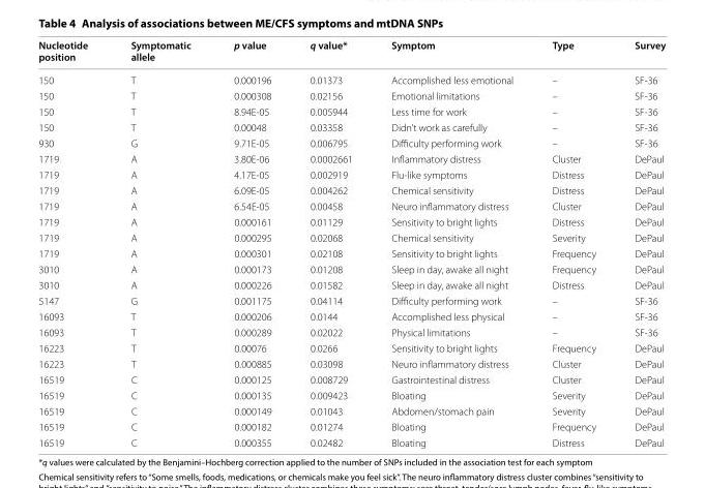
<table><thead><tr><td>Nucleotide position</td><td>Symptomatic allele</td><td>p value</td><td>q value*</td><td>Symptom</td><td>Type</td><td>Survey</td></tr></thead><tbody><tr><td>150</td><td>T</td><td>0.000196</td><td>0.01373</td><td>Accomplished less emotional</td><td>–</td><td>SF‑36</td></tr><tr><td>150</td><td>T</td><td>0.000308</td><td>0.02156</td><td>Emotional limitations</td><td>–</td><td>SF‑36</td></tr><tr><td>150</td><td>T</td><td>8.94E‑05</td><td>0.005944</td><td>Less time for work</td><td>–</td><td>SF‑36</td></tr><tr><td>150</td><td>T</td><td>0.00048</td><td>0.03358</td><td>Didn’t work as carefully</td><td>–</td><td>SF‑36</td></tr><tr><td>930</td><td>G</td><td>9.71E‑05</td><td>0.006795</td><td>Difficulty performing work</td><td>–</td><td>SF‑36</td></tr><tr><td>1719</td><td>A</td><td>3.80E‑06</td><td>0.0002661</td><td>Inflammatory distress</td><td>Cluster</td><td>DePaul</td></tr><tr><td>1719</td><td>A</td><td>4.17E‑05</td><td>0.002919</td><td>Flu‑like symptoms</td><td>Distress</td><td>DePaul</td></tr><tr><td>1719</td><td>A</td><td>6.09E‑05</td><td>0.004262</td><td>Chemical sensitivity</td><td>Distress</td><td>DePaul</td></tr><tr><td>1719</td><td>A</td><td>6.54E‑05</td><td>0.00458</td><td>Neuro inflammatory distress</td><td>Cluster</td><td>DePaul</td></tr><tr><td>1719</td><td>A</td><td>0.000161</td><td>0.01129</td><td>Sensitivity to bright lights</td><td>Distress</td><td>DePaul</td></tr><tr><td>1719</td><td>A</td><td>0.000295</td><td>0.02068</td><td>Chemical sensitivity</td><td>Severity</td><td>DePaul</td></tr><tr><td>1719</td><td>A</td><td>0.000301</td><td>0.02108</td><td>Sensitivity to bright lights</td><td>Frequency</td><td>DePaul</td></tr><tr><td>3010</td><td>A</td><td>0.000173</td><td>0.01208</td><td>Sleep in day, awake all night</td><td>Frequency</td><td>DePaul</td></tr><tr><td>3010</td><td>A</td><td>0.000226</td><td>0.01582</td><td>Sleep in day, awake all night</td><td>Distress</td><td>DePaul</td></tr><tr><td>5147</td><td>G</td><td>0.001175</td><td>0.04114</td><td>Difficulty performing work</td><td>–</td><td>SF‑36</td></tr><tr><td>16093</td><td>T</td><td>0.000206</td><td>0.0144</td><td>Accomplished less physical</td><td>–</td><td>SF‑36</td></tr><tr><td>16093</td><td>T</td><td>0.000289</td><td>0.02022</td><td>Physical limitations</td><td>–</td><td>SF‑36</td></tr><tr><td>16223</td><td>T</td><td>0.00076</td><td>0.0266</td><td>Sensitivity to bright lights</td><td>Frequency</td><td>DePaul</td></tr><tr><td>16223</td><td>T</td><td>0.000885</td><td>0.03098</td><td>Neuro inflammatory distress</td><td>Cluster</td><td>DePaul</td></tr><tr><td>16519</td><td>C</td><td>0.000125</td><td>0.008729</td><td>Gastrointestinal distress</td><td>Cluster</td><td>DePaul</td></tr><tr><td>16519</td><td>C</td><td>0.000135</td><td>0.009423</td><td>Bloating</td><td>Severity</td><td>DePaul</td></tr><tr><td>16519</td><td>C</td><td>0.000149</td><td>0.01043</td><td>Abdomen/stomach pain</td><td>Severity</td><td>DePaul</td></tr><tr><td>16519</td><td>C</td><td>0.000182</td><td>0.01274</td><td>Bloating</td><td>Frequency</td><td>DePaul</td></tr><tr><td>16519</td><td>C</td><td>0.000355</td><td>0.02482</td><td>Bloating</td><td>Distress</td><td>DePaul</td></tr></tbody></table>